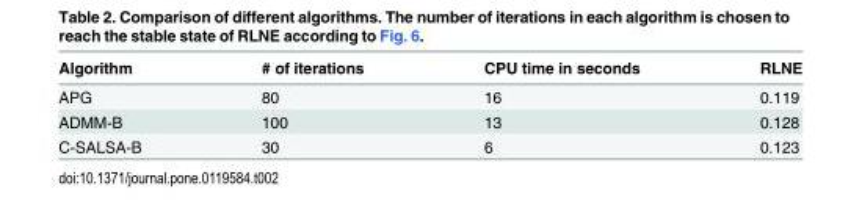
<table><thead><tr><td>Algorithm</td><td># of iterations</td><td>CPU time in seconds</td><td>RLNE</td></tr></thead><tbody><tr><td>APG</td><td>80</td><td>16</td><td>0.119</td></tr><tr><td>ADMM-B</td><td>100</td><td>13</td><td>0.128</td></tr><tr><td>C-SALSA-B</td><td>30</td><td>6</td><td>0.123</td></tr></tbody></table>